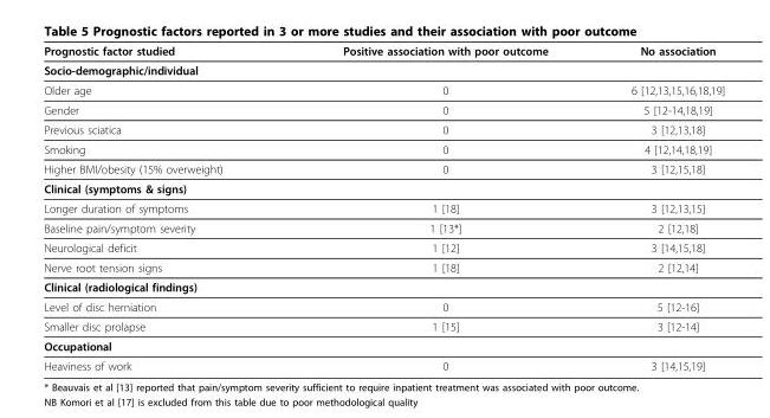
<table><thead><tr><td>Prognostic factor studied</td><td>Positive association with poor outcome</td><td>No association</td></tr></thead><tbody><tr><td colspan="3">Socio-demographic/individual</td></tr><tr><td>Older age</td><td>0</td><td>6 [12,13,15,16,18,19]</td></tr><tr><td>Gender</td><td>0</td><td>5 [12-14,18,19]</td></tr><tr><td>Previous sciatica</td><td>0</td><td>3 [12,13,18]</td></tr><tr><td>Smoking</td><td>0</td><td>4 [12,14,18,19]</td></tr><tr><td>Higher BMI/obesity (15% overweight)</td><td>0</td><td>3 [12,15,18]</td></tr><tr><td colspan="3">Clinical (symptoms &amp; signs)</td></tr><tr><td>Longer duration of symptoms</td><td>1 [18]</td><td>3 [12,13,15]</td></tr><tr><td>Baseline pain/symptom severity</td><td>1 [13*]</td><td>2 [12,18]</td></tr><tr><td>Neurological deficit</td><td>1 [12]</td><td>3 [14,15,18]</td></tr><tr><td>Nerve root tension signs</td><td>1 [18]</td><td>2 [12,14]</td></tr><tr><td colspan="3">Clinical (radiological findings)</td></tr><tr><td>Level of disc herniation</td><td>0</td><td>5 [12-16]</td></tr><tr><td>Smaller disc prolapse</td><td>1 [15]</td><td>3 [12-14]</td></tr><tr><td colspan="3">Occupational</td></tr><tr><td>Heaviness of work</td><td>0</td><td>3 [14,15,19]</td></tr></tbody></table>